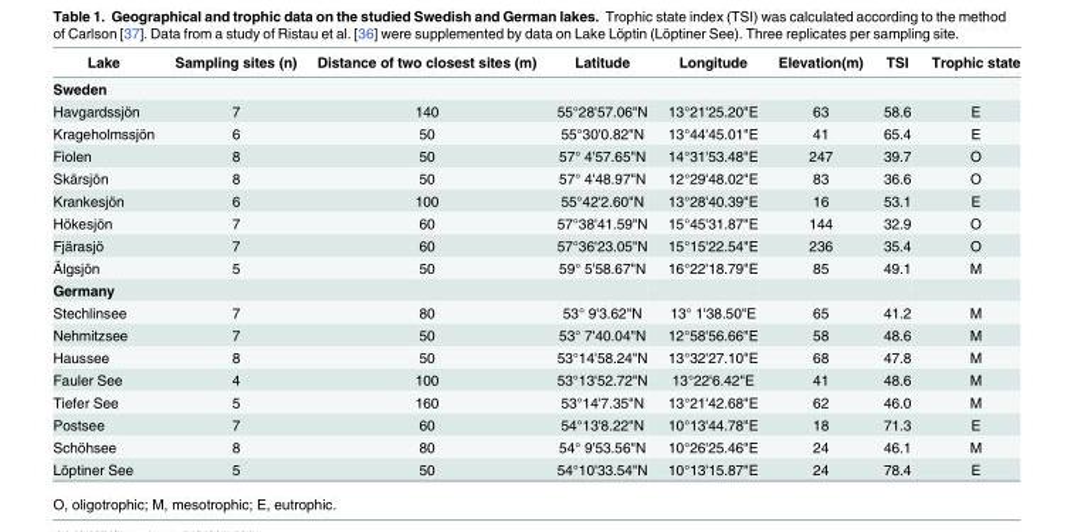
<table><thead><tr><td>Lake</td><td>Sampling sites (n)</td><td>Distance of two closest sites (m)</td><td>Latitude</td><td>Longitude</td><td>Elevation(m)</td><td>TSI</td><td>Trophic state</td></tr></thead><tbody><tr><td colspan="8">Sweden</td></tr><tr><td>Havgardssjön</td><td>7</td><td>140</td><td>55°28&#x27;57.06&quot;N</td><td>13°21&#x27;25.20&quot;E</td><td>63</td><td>58.6</td><td>E</td></tr><tr><td>Krageholmssjön</td><td>6</td><td>50</td><td>55°30&#x27;0.82&quot;N</td><td>13°44&#x27;45.01&quot;E</td><td>41</td><td>65.4</td><td>E</td></tr><tr><td>Fiolen</td><td>8</td><td>50</td><td>57° 4&#x27;57.65&quot;N</td><td>14°31&#x27;53.48&quot;E</td><td>247</td><td>39.7</td><td>O</td></tr><tr><td>Skärsjön</td><td>8</td><td>50</td><td>57° 4&#x27;48.97&quot;N</td><td>12°29&#x27;48.02&quot;E</td><td>83</td><td>36.6</td><td>O</td></tr><tr><td>Krankesjön</td><td>6</td><td>100</td><td>55°42&#x27;2.60&quot;N</td><td>13°28&#x27;40.39&quot;E</td><td>16</td><td>53.1</td><td>E</td></tr><tr><td>Hökesjön</td><td>7</td><td>60</td><td>57°38&#x27;41.59&quot;N</td><td>15°45&#x27;31.87&quot;E</td><td>144</td><td>32.9</td><td>O</td></tr><tr><td>Fjärasjö</td><td>7</td><td>60</td><td>57°36&#x27;23.05&quot;N</td><td>15°15&#x27;22.54&quot;E</td><td>236</td><td>35.4</td><td>O</td></tr><tr><td>Älgsjön</td><td>5</td><td>50</td><td>59° 5&#x27;58.67&quot;N</td><td>16°22&#x27;18.79&quot;E</td><td>85</td><td>49.1</td><td>M</td></tr><tr><td colspan="8">Germany</td></tr><tr><td>Stechlinsee</td><td>7</td><td>80</td><td>53° 9&#x27;3.62&quot;N</td><td>13° 1&#x27;38.50&quot;E</td><td>65</td><td>41.2</td><td>M</td></tr><tr><td>Nehmitzsee</td><td>7</td><td>50</td><td>53° 7&#x27;40.04&quot;N</td><td>12°58&#x27;56.66&quot;E</td><td>58</td><td>48.6</td><td>M</td></tr><tr><td>Haussee</td><td>8</td><td>50</td><td>53°14&#x27;58.24&quot;N</td><td>13°32&#x27;27.10&quot;E</td><td>68</td><td>47.8</td><td>M</td></tr><tr><td>Fauler See</td><td>4</td><td>100</td><td>53°13&#x27;52.72&quot;N</td><td>13°22&#x27;6.42&quot;E</td><td>41</td><td>48.6</td><td>M</td></tr><tr><td>Tiefer See</td><td>5</td><td>160</td><td>53°14&#x27;7.35&quot;N</td><td>13°21&#x27;42.68&quot;E</td><td>62</td><td>46.0</td><td>M</td></tr><tr><td>Postsee</td><td>7</td><td>60</td><td>54°13&#x27;8.22&quot;N</td><td>10°13&#x27;44.78&quot;E</td><td>18</td><td>71.3</td><td>E</td></tr><tr><td>Schöhsee</td><td>8</td><td>80</td><td>54° 9&#x27;53.56&quot;N</td><td>10°26&#x27;25.46&quot;E</td><td>24</td><td>46.1</td><td>M</td></tr><tr><td>Löptiner See</td><td>5</td><td>50</td><td>54°10&#x27;33.54&quot;N</td><td>10°13&#x27;15.87&quot;E</td><td>24</td><td>78.4</td><td>E</td></tr></tbody></table>